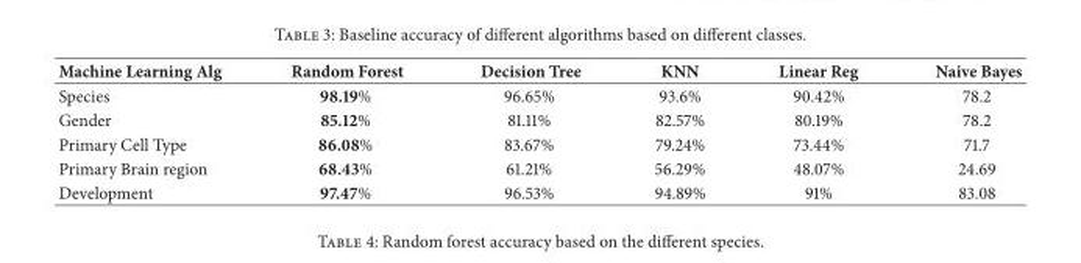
<table><thead><tr><td>Machine Learning Alg</td><td>Random Forest</td><td>Decision Tree</td><td>KNN</td><td>Linear Reg</td><td>Naive Bayes</td></tr></thead><tbody><tr><td>Species</td><td>98.19%</td><td>96.65%</td><td>93.6%</td><td>90.42%</td><td>78.2</td></tr><tr><td>Gender</td><td>85.12%</td><td>81.11%</td><td>82.57%</td><td>80.19%</td><td>78.2</td></tr><tr><td>Primary Cell Type</td><td>86.08%</td><td>83.67%</td><td>79.24%</td><td>73.44%</td><td>71.7</td></tr><tr><td>Primary Brain region</td><td>68.43%</td><td>61.21%</td><td>56.29%</td><td>48.07%</td><td>24.69</td></tr><tr><td>Development</td><td>97.47%</td><td>96.53%</td><td>94.89%</td><td>91%</td><td>83.08</td></tr></tbody></table>